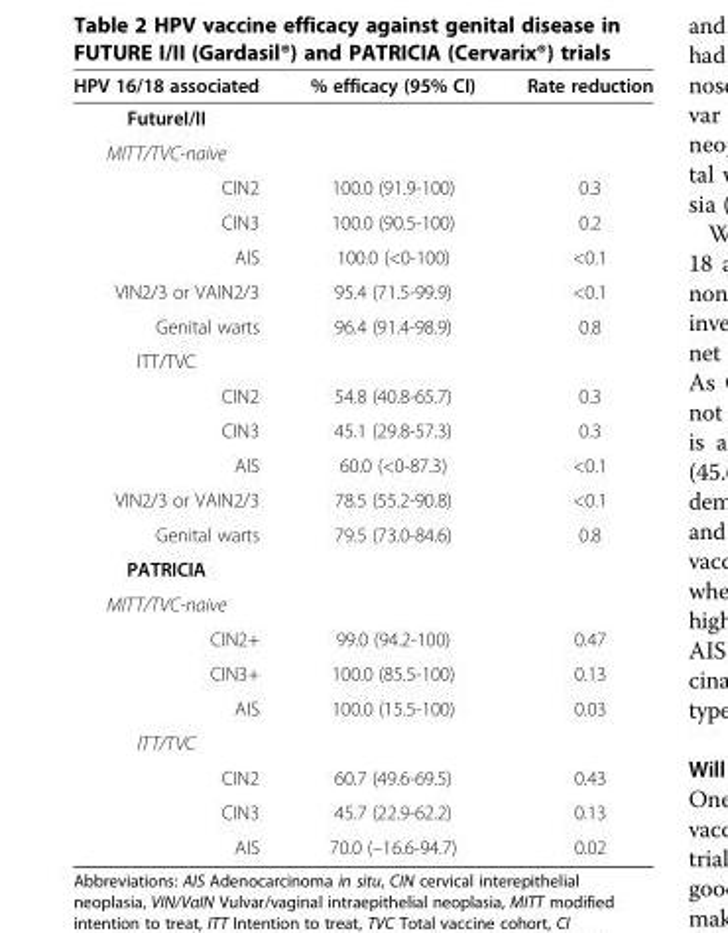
<table><thead><tr><td>HPV 16/18 associated</td><td>% efficacy (95% CI)</td><td>Rate reduction</td></tr></thead><tbody><tr><td colspan="3">FutureI/II</td></tr><tr><td colspan="3">MITT/TVC-naive</td></tr><tr><td>CIN2</td><td>100.0 (91.9-100)</td><td>0.3</td></tr><tr><td>CIN3</td><td>100.0 (90.5-100)</td><td>0.2</td></tr><tr><td>AIS</td><td>100.0 (&lt;0-100)</td><td>&lt;0.1</td></tr><tr><td>VIN2/3 or VAIN2/3</td><td>95.4 (71.5-99.9)</td><td>&lt;0.1</td></tr><tr><td>Genital warts</td><td>96.4 (91.4-98.9)</td><td>0.8</td></tr><tr><td colspan="3">ITT/TVC</td></tr><tr><td>CIN2</td><td>54.8 (40.8-65.7)</td><td>0.3</td></tr><tr><td>CIN3</td><td>45.1 (29.8-57.3)</td><td>0.3</td></tr><tr><td>AIS</td><td>60.0 (&lt;0-87.3)</td><td>&lt;0.1</td></tr><tr><td>VIN2/3 or VAIN2/3</td><td>78.5 (55.2-90.8)</td><td>&lt;0.1</td></tr><tr><td>Genital warts</td><td>79.5 (73.0-84.6)</td><td>0.8</td></tr><tr><td colspan="3">PATRICIA</td></tr><tr><td colspan="3">MITT/TVC-naive</td></tr><tr><td>CIN2+</td><td>99.0 (94.2-100)</td><td>0.47</td></tr><tr><td>CIN3+</td><td>100.0 (85.5-100)</td><td>0.13</td></tr><tr><td>AIS</td><td>100.0 (15.5-100)</td><td>0.03</td></tr><tr><td colspan="3">ITT/TVC</td></tr><tr><td>CIN2</td><td>60.7 (49.6-69.5)</td><td>0.43</td></tr><tr><td>CIN3</td><td>45.7 (22.9-62.2)</td><td>0.13</td></tr><tr><td>AIS</td><td>70.0 (–16.6-94.7)</td><td>0.02</td></tr></tbody></table>